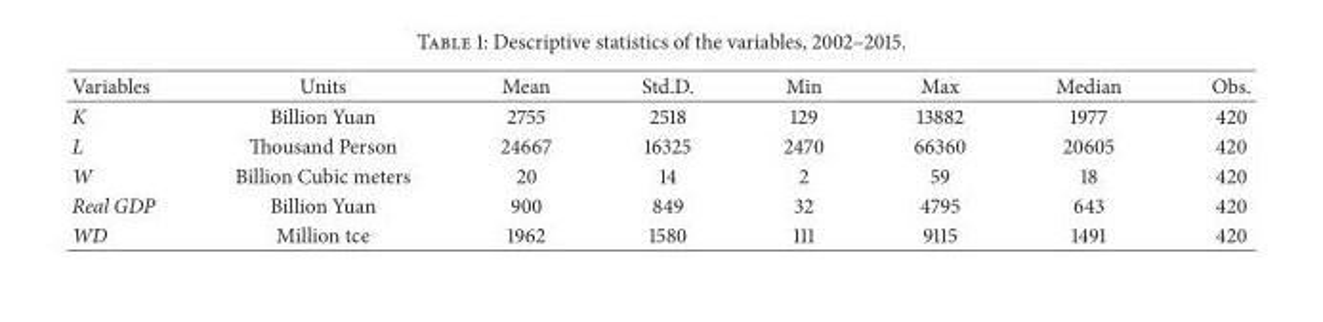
<table><thead><tr><td>Variables</td><td>Units</td><td>Mean</td><td>Std.D.</td><td>Min</td><td>Max</td><td>Median</td><td>Obs.</td></tr></thead><tbody><tr><td>K</td><td>Billion Yuan</td><td>2755</td><td>2518</td><td>129</td><td>13882</td><td>1977</td><td>420</td></tr><tr><td>L</td><td>Thousand Person</td><td>24667</td><td>16325</td><td>2470</td><td>66360</td><td>20605</td><td>420</td></tr><tr><td>W</td><td>Billion Cubic meters</td><td>20</td><td>14</td><td>2</td><td>59</td><td>18</td><td>420</td></tr><tr><td>Real GDP</td><td>Billion Yuan</td><td>900</td><td>849</td><td>32</td><td>4795</td><td>643</td><td>420</td></tr><tr><td>WD</td><td>Million tce</td><td>1962</td><td>1580</td><td>111</td><td>9115</td><td>1491</td><td>420</td></tr></tbody></table>